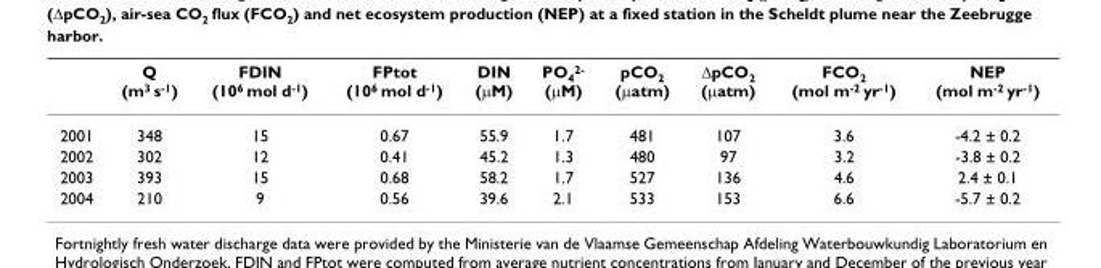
<table><thead><tr><td></td><td>Q (m<sup>3</sup> s<sup>-1</sup>)</td><td>FDIN (10<sup>6</sup> mol d<sup>-1</sup>)</td><td>FPtot (10<sup>6</sup> mol d<sup>-1</sup>)</td><td>DIN (μM)</td><td>PO<sub>4</sub><sup>2-</sup> (μM)</td><td>pCO<sub>2</sub> (μatm)</td><td>ΔpCO<sub>2</sub> (μatm)</td><td>FCO<sub>2</sub> (mol m<sup>-2</sup> yr<sup>-1</sup>)</td><td>NEP (mol m<sup>-2</sup> yr<sup>-1</sup>)</td></tr></thead><tbody><tr><td>2001</td><td>348</td><td>15</td><td>0.67</td><td>55.9</td><td>1.7</td><td>481</td><td>107</td><td>3.6</td><td>-4.2 ± 0.2</td></tr><tr><td>2002</td><td>302</td><td>12</td><td>0.41</td><td>45.2</td><td>1.3</td><td>480</td><td>97</td><td>3.2</td><td>-3.8 ± 0.2</td></tr><tr><td>2003</td><td>393</td><td>15</td><td>0.68</td><td>58.2</td><td>1.7</td><td>527</td><td>136</td><td>4.6</td><td>2.4 ± 0.1</td></tr><tr><td>2004</td><td>210</td><td>9</td><td>0.56</td><td>39.6</td><td>2.1</td><td>533</td><td>153</td><td>6.6</td><td>-5.7 ± 0.2</td></tr></tbody></table>